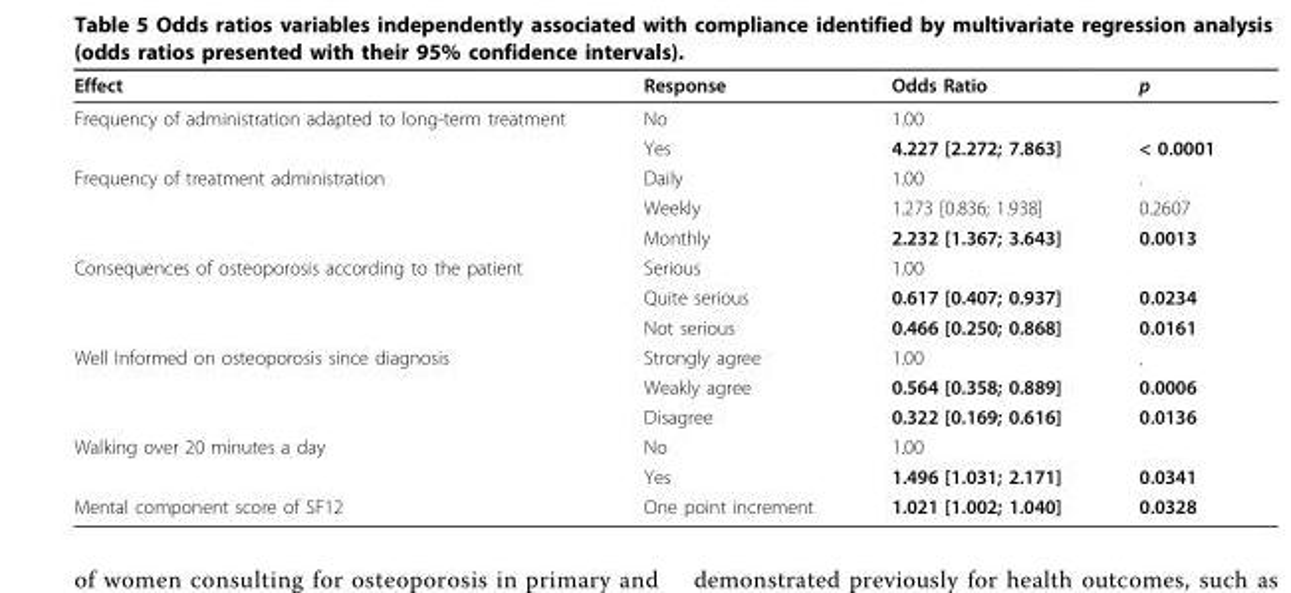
<table><thead><tr><td>Effect</td><td>Response</td><td>Odds Ratio</td><td>p</td></tr></thead><tbody><tr><td rowspan="2">Frequency of administration adapted to long-term treatment</td><td>No</td><td>1.00</td><td></td></tr><tr><td>Yes</td><td>4.227 [2.272; 7.863]</td><td>&lt; 0.0001</td></tr><tr><td rowspan="3">Frequency of treatment administration</td><td>Daily</td><td>1.00</td><td>.</td></tr><tr><td>Weekly</td><td>1.273 [0.836; 1.938]</td><td>0.2607</td></tr><tr><td>Monthly</td><td>2.232 [1.367; 3.643]</td><td>0.0013</td></tr><tr><td rowspan="3">Consequences of osteoporosis according to the patient</td><td>Serious</td><td>1.00</td><td></td></tr><tr><td>Quite serious</td><td>0.617 [0.407; 0.937]</td><td>0.0234</td></tr><tr><td>Not serious</td><td>0.466 [0.250; 0.868]</td><td>0.0161</td></tr><tr><td rowspan="3">Well Informed on osteoporosis since diagnosis</td><td>Strongly agree</td><td>1.00</td><td>.</td></tr><tr><td>Weakly agree</td><td>0.564 [0.358; 0.889]</td><td>0.0006</td></tr><tr><td>Disagree</td><td>0.322 [0.169; 0.616]</td><td>0.0136</td></tr><tr><td rowspan="2">Walking over 20 minutes a day</td><td>No</td><td>1.00</td><td></td></tr><tr><td>Yes</td><td>1.496 [1.031; 2.171]</td><td>0.0341</td></tr><tr><td>Mental component score of SF12</td><td>One point increment</td><td>1.021 [1.002; 1.040]</td><td>0.0328</td></tr></tbody></table>